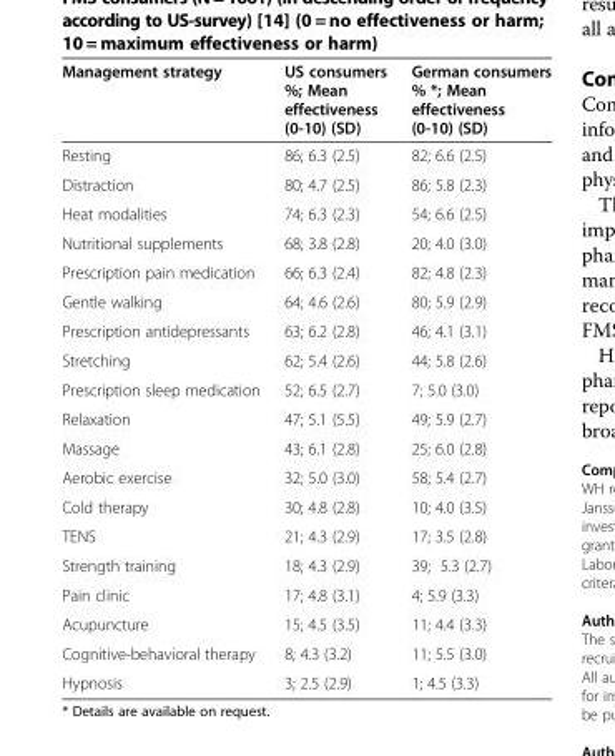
<table><thead><tr><td>Management strategy</td><td>US consumers %; Mean effectiveness (0-10) (SD)</td><td>German consumers % *; Mean effectiveness (0-10) (SD)</td></tr></thead><tbody><tr><td>Resting</td><td>86; 6.3 (2.5)</td><td>82; 6.6 (2.5)</td></tr><tr><td>Distraction</td><td>80; 4.7 (2.5)</td><td>86; 5.8 (2.3)</td></tr><tr><td>Heat modalities</td><td>74; 6.3 (2.3)</td><td>54; 6.6 (2.5)</td></tr><tr><td>Nutritional supplements</td><td>68; 3.8 (2.8)</td><td>20; 4.0 (3.0)</td></tr><tr><td>Prescription pain medication</td><td>66; 6.3 (2.4)</td><td>82; 4.8 (2.3)</td></tr><tr><td>Gentle walking</td><td>64; 4.6 (2.6)</td><td>80; 5.9 (2.9)</td></tr><tr><td>Prescription antidepressants</td><td>63; 6.2 (2.8)</td><td>46; 4.1 (3.1)</td></tr><tr><td>Stretching</td><td>62; 5.4 (2.6)</td><td>44; 5.8 (2.6)</td></tr><tr><td>Prescription sleep medication</td><td>52; 6.5 (2.7)</td><td>7; 5.0 (3.0)</td></tr><tr><td>Relaxation</td><td>47; 5.1 (5.5)</td><td>49; 5.9 (2.7)</td></tr><tr><td>Massage</td><td>43; 6.1 (2.8)</td><td>25; 6.0 (2.8)</td></tr><tr><td>Aerobic exercise</td><td>32; 5.0 (3.0)</td><td>58; 5.4 (2.7)</td></tr><tr><td>Cold therapy</td><td>30; 4.8 (2.8)</td><td>10; 4.0 (3.5)</td></tr><tr><td>TENS</td><td>21; 4.3 (2.9)</td><td>17; 3.5 (2.8)</td></tr><tr><td>Strength training</td><td>18; 4.3 (2.9)</td><td>39; 5.3 (2.7)</td></tr><tr><td>Pain clinic</td><td>17; 4.8 (3.1)</td><td>4; 5.9 (3.3)</td></tr><tr><td>Acupuncture</td><td>15; 4.5 (3.5)</td><td>11; 4.4 (3.3)</td></tr><tr><td>Cognitive-behavioral therapy</td><td>8; 4.3 (3.2)</td><td>11; 5.5 (3.0)</td></tr><tr><td>Hypnosis</td><td>3; 2.5 (2.9)</td><td>1; 4.5 (3.3)</td></tr></tbody></table>